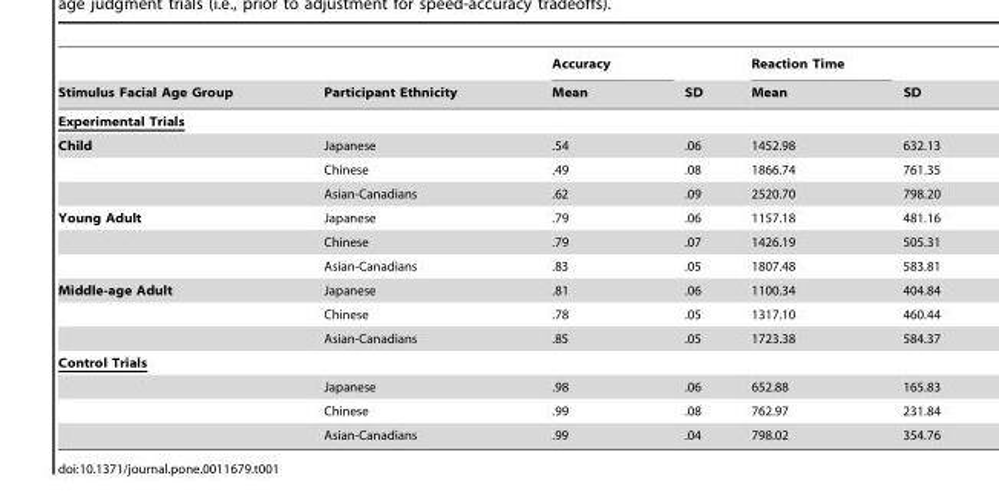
<table><thead><tr><td rowspan="2">Stimulus Facial Age Group</td><td rowspan="2">Participant Ethnicity</td><td rowspan="2">Accuracy Mean</td><td rowspan="2">SD</td><td rowspan="2">Reaction Time Mean</td><td rowspan="2">SD</td></tr><tr></tr></thead><tbody><tr><td colspan="6">Experimental Trials</td></tr><tr><td rowspan="3">Child</td><td>Japanese</td><td>.54</td><td>.06</td><td>1452.98</td><td>632.13</td></tr><tr><td>Chinese</td><td>.49</td><td>.08</td><td>1866.74</td><td>761.35</td></tr><tr><td>Asian-Canadians</td><td>.62</td><td>.09</td><td>2520.70</td><td>798.20</td></tr><tr><td rowspan="3">Young Adult</td><td>Japanese</td><td>.79</td><td>.06</td><td>1157.18</td><td>481.16</td></tr><tr><td>Chinese</td><td>.79</td><td>.07</td><td>1426.19</td><td>505.31</td></tr><tr><td>Asian-Canadians</td><td>.83</td><td>.05</td><td>1807.48</td><td>583.81</td></tr><tr><td rowspan="3">Middle-age Adult</td><td>Japanese</td><td>.81</td><td>.06</td><td>1100.34</td><td>404.84</td></tr><tr><td>Chinese</td><td>.78</td><td>.05</td><td>1317.10</td><td>460.44</td></tr><tr><td>Asian-Canadians</td><td>.85</td><td>.05</td><td>1723.38</td><td>584.37</td></tr><tr><td colspan="6">Control Trials</td></tr><tr><td></td><td>Japanese</td><td>.98</td><td>.06</td><td>652.88</td><td>165.83</td></tr><tr><td></td><td>Chinese</td><td>.99</td><td>.08</td><td>762.97</td><td>231.84</td></tr><tr><td></td><td>Asian-Canadians</td><td>.99</td><td>.04</td><td>798.02</td><td>354.76</td></tr></tbody></table>